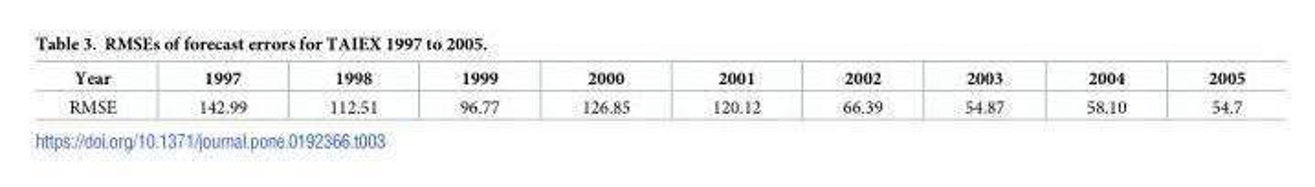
<table><thead><tr><td>Year</td><td>1997</td><td>1998</td><td>1999</td><td>2000</td><td>2001</td><td>2002</td><td>2003</td><td>2004</td><td>2005</td></tr></thead><tbody><tr><td>RMSE</td><td>142.99</td><td>112.51</td><td>96.77</td><td>126.85</td><td>120.12</td><td>66.39</td><td>54.87</td><td>58.10</td><td>54.7</td></tr></tbody></table>